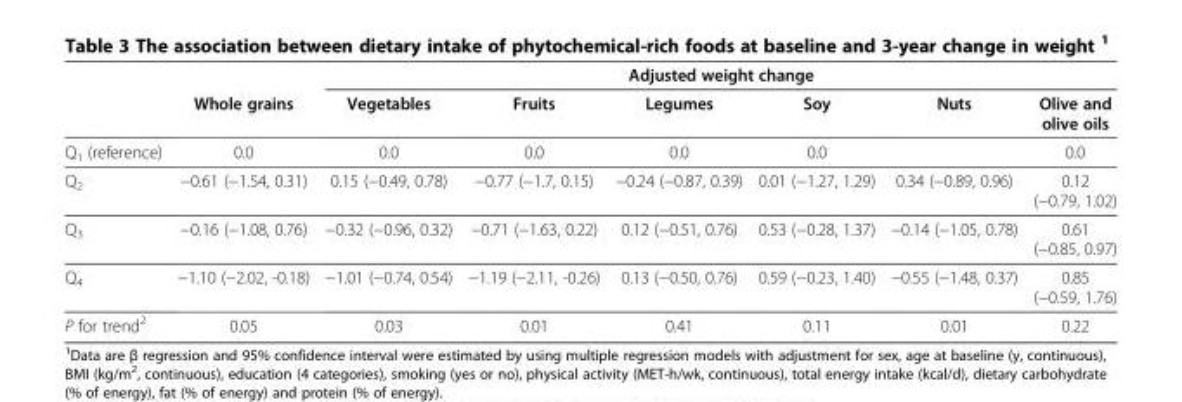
<table><thead><tr><td rowspan="2"></td><td rowspan="2">Whole grains</td><td colspan="6">Adjusted weight change</td></tr><tr><td>Vegetables</td><td>Fruits</td><td>Legumes</td><td>Soy</td><td>Nuts</td><td>Olive and olive oils</td></tr></thead><tbody><tr><td>Q<sub>1</sub> (reference)</td><td>0.0</td><td>0.0</td><td>0.0</td><td>0.0</td><td>0.0</td><td></td><td>0.0</td></tr><tr><td>Q<sub>2</sub></td><td>−0.61 (−1.54, 0.31)</td><td>0.15 (−0.49, 0.78)</td><td>−0.77 (−1.7, 0.15)</td><td>−0.24 (−0.87, 0.39)</td><td>0.01 (−1.27, 1.29)</td><td>0.34 (−0.89, 0.96)</td><td>0.12 (−0.79, 1.02)</td></tr><tr><td>Q<sub>3</sub></td><td>−0.16 (−1.08, 0.76)</td><td>−0.32 (−0.96, 0.32)</td><td>−0.71 (−1.63, 0.22)</td><td>0.12 (−0.51, 0.76)</td><td>0.53 (−0.28, 1.37)</td><td>−0.14 (−1.05, 0.78)</td><td>0.61 (−0.85, 0.97)</td></tr><tr><td>Q<sub>4</sub></td><td>−1.10 (−2.02, -0.18)</td><td>−1.01 (−0.74, 0.54)</td><td>−1.19 (−2.11, -0.26)</td><td>0.13 (−0.50, 0.76)</td><td>0.59 (−0.23, 1.40)</td><td>−0.55 (−1.48, 0.37)</td><td>0.85 (−0.59, 1.76)</td></tr><tr><td>P for trend<sup>2</sup></td><td>0.05</td><td>0.03</td><td>0.01</td><td>0.41</td><td>0.11</td><td>0.01</td><td>0.22</td></tr></tbody></table>